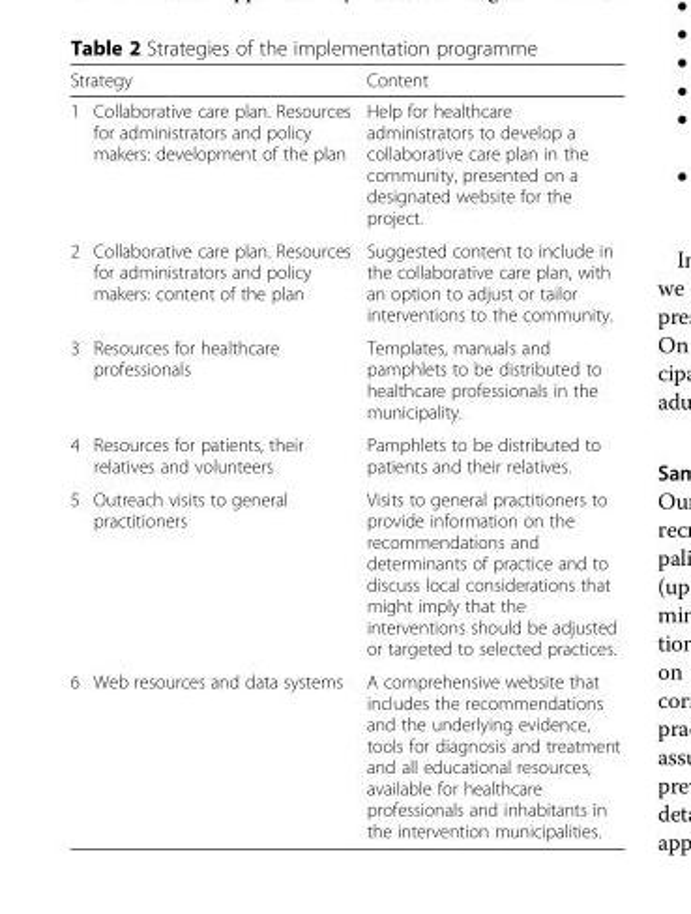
<table><thead><tr><td colspan="2">Strategy</td><td rowspan="2">Content Help for healthcare administrators to develop a collaborative care plan in the community, presented on a designated website for the project.</td></tr><tr><td>1</td><td>Collaborative care plan. Resources for administrators and policy makers: development of the plan</td></tr></thead><tbody><tr><td>2</td><td>Collaborative care plan. Resources for administrators and policy makers: content of the plan</td><td>Suggested content to include in the collaborative care plan, with an option to adjust or tailor interventions to the community.</td></tr><tr><td>3</td><td>Resources for healthcare professionals</td><td>Templates, manuals and pamphlets to be distributed to healthcare professionals in the municipality.</td></tr><tr><td>4</td><td>Resources for patients, their relatives and volunteers</td><td>Pamphlets to be distributed to patients and their relatives.</td></tr><tr><td>5</td><td>Outreach visits to general practitioners</td><td>Visits to general practitioners to provide information on the recommendations and determinants of practice and to discuss local considerations that might imply that the interventions should be adjusted or targeted to selected practices.</td></tr><tr><td>6</td><td>Web resources and data systems</td><td>A comprehensive website that includes the recommendations and the underlying evidence, tools for diagnosis and treatment and all educational resources, available for healthcare professionals and inhabitants in the intervention municipalities.</td></tr></tbody></table>